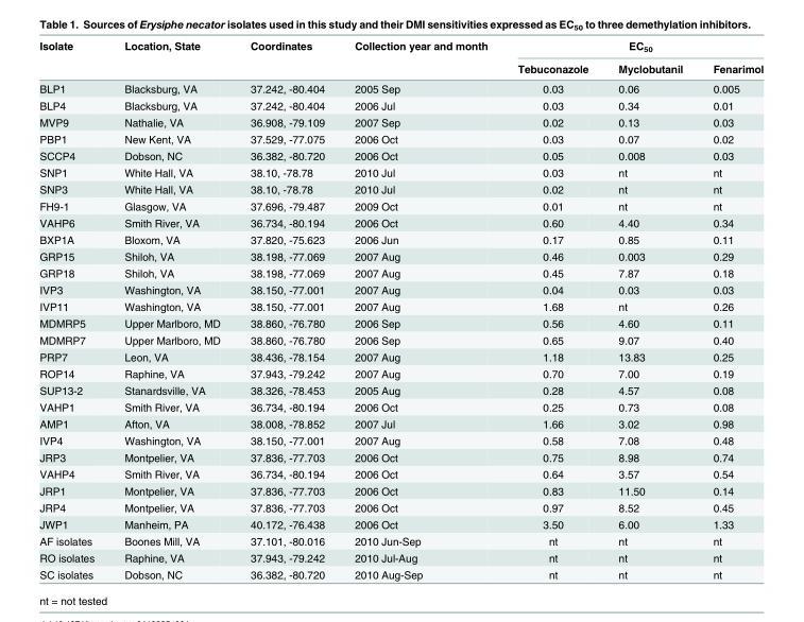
<table><thead><tr><td rowspan="2">Isolate</td><td rowspan="2">Location, State</td><td rowspan="2">Coordinates</td><td rowspan="2">Collection year and month</td><td colspan="3">EC<sub>50</sub></td></tr><tr><td>Tebuconazole</td><td>Myclobutanil</td><td>Fenarimol</td></tr></thead><tbody><tr><td>BLP1</td><td>Blacksburg, VA</td><td>37.242, -80.404</td><td>2005 Sep</td><td>0.03</td><td>0.06</td><td>0.005</td></tr><tr><td>BLP4</td><td>Blacksburg, VA</td><td>37.242, -80.404</td><td>2006 Jul</td><td>0.03</td><td>0.34</td><td>0.01</td></tr><tr><td>MVP9</td><td>Nathalie, VA</td><td>36.908, -79.109</td><td>2007 Sep</td><td>0.02</td><td>0.13</td><td>0.03</td></tr><tr><td>PBP1</td><td>New Kent, VA</td><td>37.529, -77.075</td><td>2006 Oct</td><td>0.03</td><td>0.07</td><td>0.02</td></tr><tr><td>SCCP4</td><td>Dobson, NC</td><td>36.382, -80.720</td><td>2006 Oct</td><td>0.05</td><td>0.008</td><td>0.03</td></tr><tr><td>SNP1</td><td>White Hall, VA</td><td>38.10, -78.78</td><td>2010 Jul</td><td>0.03</td><td>nt</td><td>nt</td></tr><tr><td>SNP3</td><td>White Hall, VA</td><td>38.10, -78.78</td><td>2010 Jul</td><td>0.02</td><td>nt</td><td>nt</td></tr><tr><td>FH9-1</td><td>Glasgow, VA</td><td>37.696, -79.487</td><td>2009 Oct</td><td>0.01</td><td>nt</td><td>nt</td></tr><tr><td>VAHP6</td><td>Smith River, VA</td><td>36.734, -80.194</td><td>2006 Oct</td><td>0.60</td><td>4.40</td><td>0.34</td></tr><tr><td>BXP1A</td><td>Bloxom, VA</td><td>37.820, -75.623</td><td>2006 Jun</td><td>0.17</td><td>0.85</td><td>0.11</td></tr><tr><td>GRP15</td><td>Shiloh, VA</td><td>38.198, -77.069</td><td>2007 Aug</td><td>0.46</td><td>0.003</td><td>0.29</td></tr><tr><td>GRP18</td><td>Shiloh, VA</td><td>38.198, -77.069</td><td>2007 Aug</td><td>0.45</td><td>7.87</td><td>0.18</td></tr><tr><td>IVP3</td><td>Washington, VA</td><td>38.150, -77.001</td><td>2007 Aug</td><td>0.04</td><td>0.03</td><td>0.03</td></tr><tr><td>IVP11</td><td>Washington, VA</td><td>38.150, -77.001</td><td>2007 Aug</td><td>1.68</td><td>nt</td><td>0.26</td></tr><tr><td>MDMRP5</td><td>Upper Marlboro, MD</td><td>38.860, -76.780</td><td>2006 Sep</td><td>0.56</td><td>4.60</td><td>0.11</td></tr><tr><td>MDMRP7</td><td>Upper Marlboro, MD</td><td>38.860, -76.780</td><td>2006 Sep</td><td>0.65</td><td>9.07</td><td>0.40</td></tr><tr><td>PRP7</td><td>Leon, VA</td><td>38.436, -78.154</td><td>2007 Aug</td><td>1.18</td><td>13.83</td><td>0.25</td></tr><tr><td>ROP14</td><td>Raphine, VA</td><td>37.943, -79.242</td><td>2007 Aug</td><td>0.70</td><td>7.00</td><td>0.19</td></tr><tr><td>SUP13-2</td><td>Stanardsville, VA</td><td>38.326, -78.453</td><td>2005 Aug</td><td>0.28</td><td>4.57</td><td>0.08</td></tr><tr><td>VAHP1</td><td>Smith River, VA</td><td>36.734, -80.194</td><td>2006 Oct</td><td>0.25</td><td>0.73</td><td>0.08</td></tr><tr><td>AMP1</td><td>Afton, VA</td><td>38.008, -78.852</td><td>2007 Jul</td><td>1.66</td><td>3.02</td><td>0.98</td></tr><tr><td>IVP4</td><td>Washington, VA</td><td>38.150, -77.001</td><td>2007 Aug</td><td>0.58</td><td>7.08</td><td>0.48</td></tr><tr><td>JRP3</td><td>Montpelier, VA</td><td>37.836, -77.703</td><td>2006 Oct</td><td>0.75</td><td>8.98</td><td>0.74</td></tr><tr><td>VAHP4</td><td>Smith River, VA</td><td>36.734, -80.194</td><td>2006 Oct</td><td>0.64</td><td>3.57</td><td>0.54</td></tr><tr><td>JRP1</td><td>Montpelier, VA</td><td>37.836, -77.703</td><td>2006 Oct</td><td>0.83</td><td>11.50</td><td>0.14</td></tr><tr><td>JRP4</td><td>Montpelier, VA</td><td>37.836, -77.703</td><td>2006 Oct</td><td>0.97</td><td>8.52</td><td>0.45</td></tr><tr><td>JWP1</td><td>Manheim, PA</td><td>40.172, -76.438</td><td>2006 Oct</td><td>3.50</td><td>6.00</td><td>1.33</td></tr><tr><td>AF isolates</td><td>Boones Mill, VA</td><td>37.101, -80.016</td><td>2010 Jun-Sep</td><td>nt</td><td>nt</td><td>nt</td></tr><tr><td>RO isolates</td><td>Raphine, VA</td><td>37.943, -79.242</td><td>2010 Jul-Aug</td><td>nt</td><td>nt</td><td>nt</td></tr><tr><td>SC isolates</td><td>Dobson, NC</td><td>36.382, -80.720</td><td>2010 Aug-Sep</td><td>nt</td><td>nt</td><td>nt</td></tr></tbody></table>